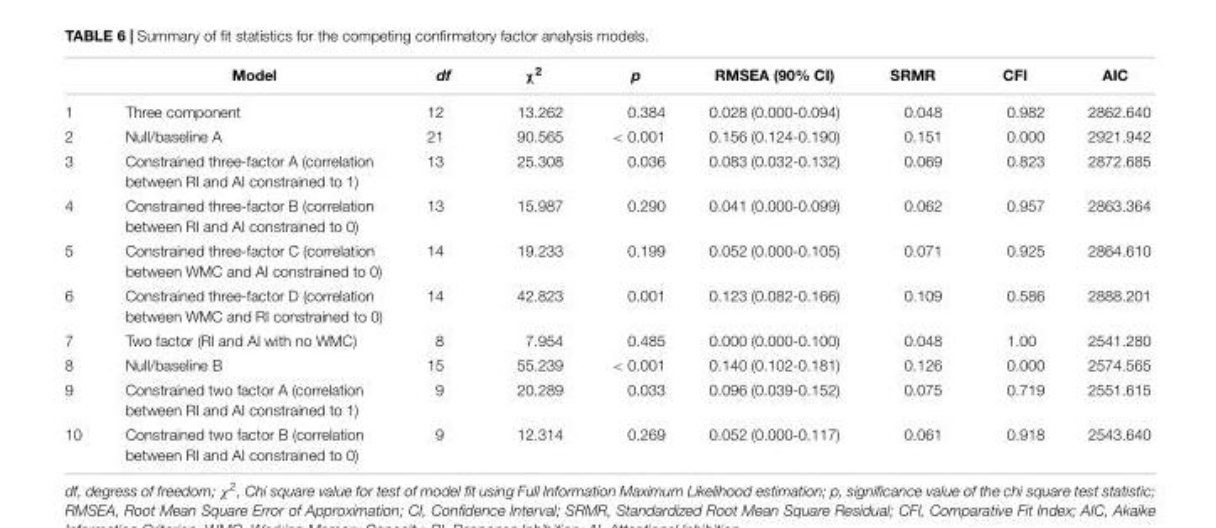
<table><thead><tr><td></td><td>Model</td><td>df</td><td>χ<sup>2</sup></td><td>p</td><td>RMSEA (90% CI)</td><td>SRMR</td><td>CFI</td><td>AIC</td></tr></thead><tbody><tr><td>1</td><td>Three component</td><td>12</td><td>13.262</td><td>0.384</td><td>0.028 (0.000-0.094)</td><td>0.048</td><td>0.982</td><td>2862.640</td></tr><tr><td>2</td><td>Null/baseline A</td><td>21</td><td>90.565</td><td>&lt; 0.001</td><td>0.156 (0.124-0.190)</td><td>0.151</td><td>0.000</td><td>2921.942</td></tr><tr><td>3</td><td>Constrained three-factor A (correlation between RI and AI constrained to 1)</td><td>13</td><td>25.308</td><td>0.036</td><td>0.083 (0.032-0.132)</td><td>0.069</td><td>0.823</td><td>2872.685</td></tr><tr><td>4</td><td>Constrained three-factor B (correlation between RI and AI constrained to 0)</td><td>13</td><td>15.987</td><td>0.290</td><td>0.041 (0.000-0.099)</td><td>0.062</td><td>0.957</td><td>2863.364</td></tr><tr><td>5</td><td>Constrained three-factor C (correlation between WMC and AI constrained to 0)</td><td>14</td><td>19.233</td><td>0.199</td><td>0.052 (0.000-0.105)</td><td>0.071</td><td>0.925</td><td>2864.610</td></tr><tr><td>6</td><td>Constrained three-factor D (correlation between WMC and RI constrained to 0)</td><td>14</td><td>42.823</td><td>0.001</td><td>0.123 (0.082-0.166)</td><td>0.109</td><td>0.586</td><td>2888.201</td></tr><tr><td>7</td><td>Two factor (RI and AI with no WMC)</td><td>8</td><td>7.954</td><td>0.485</td><td>0.000 (0.000-0.100)</td><td>0.048</td><td>1.00</td><td>2541.280</td></tr><tr><td>8</td><td>Null/baseline B</td><td>15</td><td>55.239</td><td>&lt; 0.001</td><td>0.140 (0.102-0.181)</td><td>0.126</td><td>0.000</td><td>2574.565</td></tr><tr><td>9</td><td>Constrained two factor A (correlation between RI and AI constrained to 1)</td><td>9</td><td>20.289</td><td>0.033</td><td>0.096 (0.039-0.152)</td><td>0.075</td><td>0.719</td><td>2551.615</td></tr><tr><td>10</td><td>Constrained two factor B (correlation between RI and AI constrained to 0)</td><td>9</td><td>12.314</td><td>0.269</td><td>0.052 (0.000-0.117)</td><td>0.061</td><td>0.918</td><td>2543.640</td></tr></tbody></table>